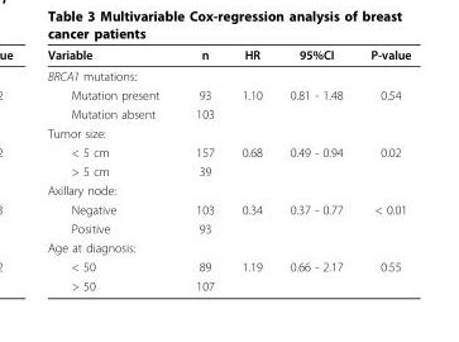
<table><thead><tr><td>Variable</td><td>n</td><td>HR</td><td>95%CI</td><td>P-value</td></tr></thead><tbody><tr><td colspan="5">BRCA1 mutations:</td></tr><tr><td>Mutation present</td><td>93</td><td>1.10</td><td>0.81 - 1.48</td><td>0.54</td></tr><tr><td>Mutation absent</td><td>103</td><td></td><td></td><td></td></tr><tr><td colspan="5">Tumor size:</td></tr><tr><td>&lt; 5 cm</td><td>157</td><td>0.68</td><td>0.49 - 0.94</td><td>0.02</td></tr><tr><td>&gt; 5 cm</td><td>39</td><td></td><td></td><td></td></tr><tr><td colspan="5">Axillary node:</td></tr><tr><td>Negative</td><td>103</td><td>0.34</td><td>0.37 - 0.77</td><td>&lt; 0.01</td></tr><tr><td>Positive</td><td>93</td><td></td><td></td><td></td></tr><tr><td colspan="5">Age at diagnosis:</td></tr><tr><td>&lt; 50</td><td>89</td><td>1.19</td><td>0.66 - 2.17</td><td>0.55</td></tr><tr><td>&gt; 50</td><td>107</td><td></td><td></td><td></td></tr></tbody></table>